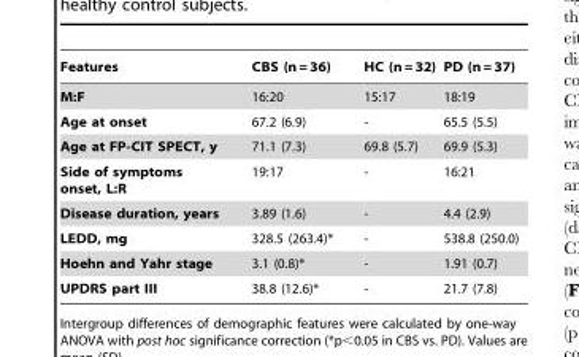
<table><thead><tr><td>Features</td><td>CBS (n = 36)</td><td>HC (n = 32)</td><td>PD (n = 37)</td></tr></thead><tbody><tr><td>M:F</td><td>16:20</td><td>15:17</td><td>18:19</td></tr><tr><td>Age at onset</td><td>67.2 (6.9)</td><td>-</td><td>65.5 (5.5)</td></tr><tr><td>Age at FP-CIT SPECT, y</td><td>71.1 (7.3)</td><td>69.8 (5.7)</td><td>69.9 (5.3)</td></tr><tr><td>Side of symptoms onset, L:R</td><td>19:17</td><td>-</td><td>16:21</td></tr><tr><td>Disease duration, years</td><td>3.89 (1.6)</td><td>-</td><td>4.4 (2.9)</td></tr><tr><td>LEDD, mg</td><td>328.5 (263.4)*</td><td>-</td><td>538.8 (250.0)</td></tr><tr><td>Hoehn and Yahr stage</td><td>3.1 (0.8)*</td><td>-</td><td>1.91 (0.7)</td></tr><tr><td>UPDRS part III</td><td>38.8 (12.6)*</td><td>-</td><td>21.7 (7.8)</td></tr></tbody></table>